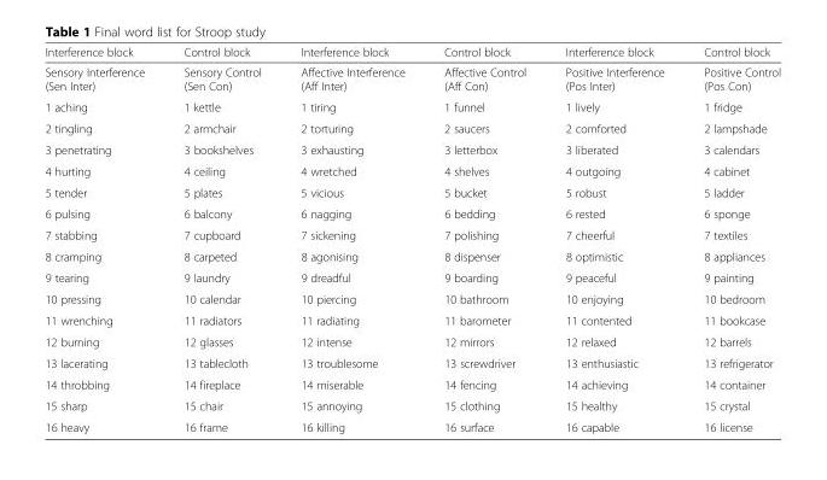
<table><thead><tr><td>Interference block</td><td>Control block</td><td>Interference block</td><td>Control block</td><td>Interference block</td><td>Control block</td></tr></thead><tbody><tr><td>Sensory Interference (Sen Inter)</td><td>Sensory Control (Sen Con)</td><td>Affective Interference (Aff Inter)</td><td>Affective Control (Aff Con)</td><td>Positive Interference (Pos Inter)</td><td>Positive Control (Pos Con)</td></tr><tr><td>1 aching</td><td>1 kettle</td><td>1 tiring</td><td>1 funnel</td><td>1 lively</td><td>1 fridge</td></tr><tr><td>2 tingling</td><td>2 armchair</td><td>2 torturing</td><td>2 saucers</td><td>2 comforted</td><td>2 lampshade</td></tr><tr><td>3 penetrating</td><td>3 bookshelves</td><td>3 exhausting</td><td>3 letterbox</td><td>3 liberated</td><td>3 calendars</td></tr><tr><td>4 hurting</td><td>4 ceiling</td><td>4 wretched</td><td>4 shelves</td><td>4 outgoing</td><td>4 cabinet</td></tr><tr><td>5 tender</td><td>5 plates</td><td>5 vicious</td><td>5 bucket</td><td>5 robust</td><td>5 ladder</td></tr><tr><td>6 pulsing</td><td>6 balcony</td><td>6 nagging</td><td>6 bedding</td><td>6 rested</td><td>6 sponge</td></tr><tr><td>7 stabbing</td><td>7 cupboard</td><td>7 sickening</td><td>7 polishing</td><td>7 cheerful</td><td>7 textiles</td></tr><tr><td>8 cramping</td><td>8 carpeted</td><td>8 agonising</td><td>8 dispenser</td><td>8 optimistic</td><td>8 appliances</td></tr><tr><td>9 tearing</td><td>9 laundry</td><td>9 dreadful</td><td>9 boarding</td><td>9 peaceful</td><td>9 painting</td></tr><tr><td>10 pressing</td><td>10 calendar</td><td>10 piercing</td><td>10 bathroom</td><td>10 enjoying</td><td>10 bedroom</td></tr><tr><td>11 wrenching</td><td>11 radiators</td><td>11 radiating</td><td>11 barometer</td><td>11 contented</td><td>11 bookcase</td></tr><tr><td>12 burning</td><td>12 glasses</td><td>12 intense</td><td>12 mirrors</td><td>12 relaxed</td><td>12 barrels</td></tr><tr><td>13 lacerating</td><td>13 tablecloth</td><td>13 troublesome</td><td>13 screwdriver</td><td>13 enthusiastic</td><td>13 refrigerator</td></tr><tr><td>14 throbbing</td><td>14 fireplace</td><td>14 miserable</td><td>14 fencing</td><td>14 achieving</td><td>14 container</td></tr><tr><td>15 sharp</td><td>15 chair</td><td>15 annoying</td><td>15 clothing</td><td>15 healthy</td><td>15 crystal</td></tr><tr><td>16 heavy</td><td>16 frame</td><td>16 killing</td><td>16 surface</td><td>16 capable</td><td>16 license</td></tr></tbody></table>